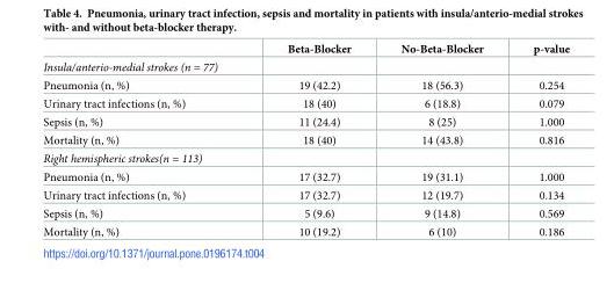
<table><thead><tr><td></td><td>Beta-Blocker</td><td>No-Beta-Blocker</td><td>p-value</td></tr></thead><tbody><tr><td colspan="4">Insula/anterio-medial strokes (n = 77)</td></tr><tr><td>Pneumonia (n, %)</td><td>19 (42.2)</td><td>18 (56.3)</td><td>0.254</td></tr><tr><td>Urinary tract infections (n, %)</td><td>18 (40)</td><td>6 (18.8)</td><td>0.079</td></tr><tr><td>Sepsis (n, %)</td><td>11 (24.4)</td><td>8 (25)</td><td>1.000</td></tr><tr><td>Mortality (n, %)</td><td>18 (40)</td><td>14 (43.8)</td><td>0.816</td></tr><tr><td colspan="4">Right hemispheric strokes(n = 113)</td></tr><tr><td>Pneumonia (n, %)</td><td>17 (32.7)</td><td>19 (31.1)</td><td>1.000</td></tr><tr><td>Urinary tract infections (n, %)</td><td>17 (32.7)</td><td>12 (19.7)</td><td>0.134</td></tr><tr><td>Sepsis (n, %)</td><td>5 (9.6)</td><td>9 (14.8)</td><td>0.569</td></tr><tr><td>Mortality (n, %)</td><td>10 (19.2)</td><td>6 (10)</td><td>0.186</td></tr></tbody></table>